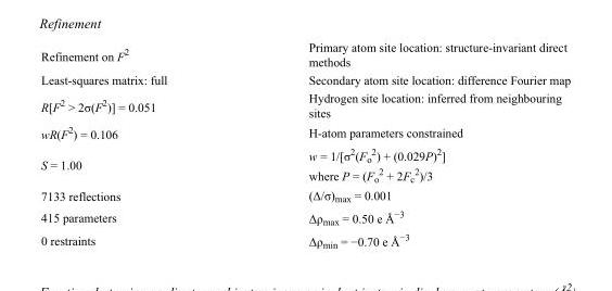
<table><tbody><tr><td>Refinement on F<sup>2</sup></td><td>Primary atom site location: structure-invariant direct methods</td></tr><tr><td>Least-squares matrix: full</td><td>Secondary atom site location: difference Fourier map</td></tr><tr><td>R[F<sup>2</sup> &gt; 2σ(F<sup>2</sup>)] = 0.051</td><td>Hydrogen site location: inferred from neighbouring sites</td></tr><tr><td>wR(F<sup>2</sup>) = 0.106</td><td>H-atom parameters constrained</td></tr><tr><td>S = 1.00</td><td>w = 1/[σ<sup>2</sup>(F<sub>o</sub> <sup>2</sup>) + (0.029P)<sup>2</sup>] where P = (F<sub>o</sub> <sup>2</sup> + 2F<sub>c</sub> <sup>2</sup>)/3</td></tr><tr><td>7133 reflections</td><td>(Δ/σ)<sub>max</sub> = 0.001</td></tr><tr><td>415 parameters</td><td>Δρ<sub>max</sub> = 0.50 e Å<sup>−3</sup></td></tr><tr><td>0 restraints</td><td>Δρ<sub>min</sub> = −0.70 e Å<sup>−3</sup></td></tr></tbody></table>